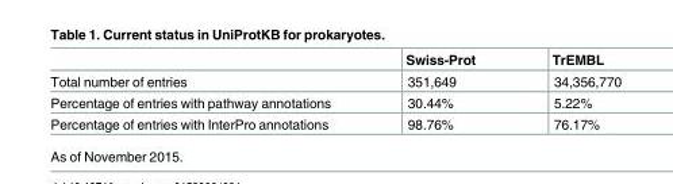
<table><thead><tr><td></td><td>Swiss-Prot</td><td>TrEMBL</td></tr></thead><tbody><tr><td>Total number of entries</td><td>351,649</td><td>34,356,770</td></tr><tr><td>Percentage of entries with pathway annotations</td><td>30.44%</td><td>5.22%</td></tr><tr><td>Percentage of entries with InterPro annotations</td><td>98.76%</td><td>76.17%</td></tr></tbody></table>